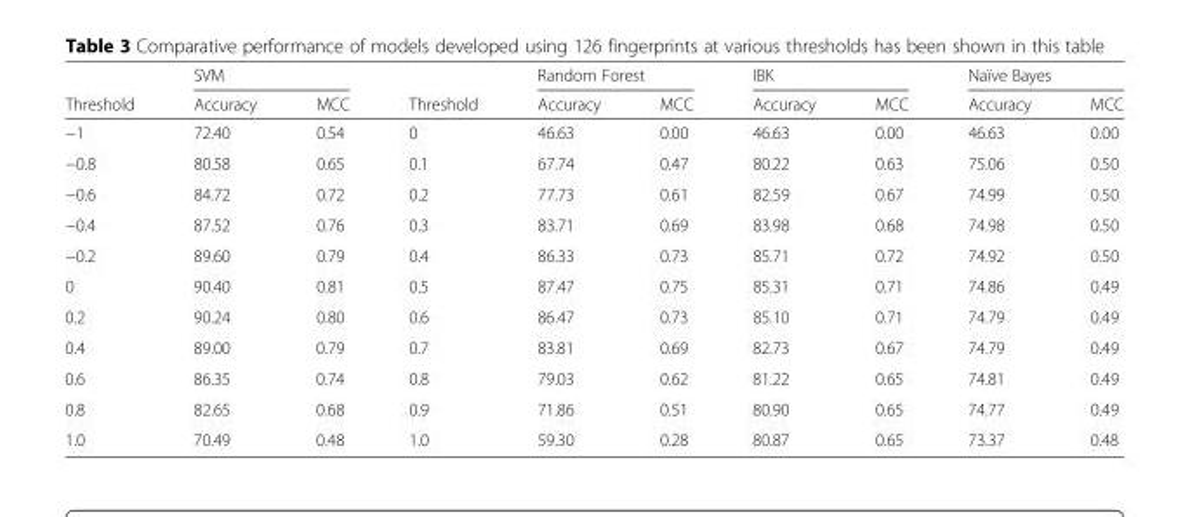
<table><thead><tr><td rowspan="2">Threshold</td><td colspan="2">SVM</td><td rowspan="2">Threshold</td><td colspan="2">Random Forest</td><td colspan="2">IBK</td><td colspan="2">Naïve Bayes</td></tr><tr><td>Accuracy</td><td>MCC</td><td>Accuracy</td><td>MCC</td><td>Accuracy</td><td>MCC</td><td>Accuracy</td><td>MCC</td></tr></thead><tbody><tr><td>−1</td><td>72.40</td><td>0.54</td><td>0</td><td>46.63</td><td>0.00</td><td>46.63</td><td>0.00</td><td>46.63</td><td>0.00</td></tr><tr><td>−0.8</td><td>80.58</td><td>0.65</td><td>0.1</td><td>67.74</td><td>0.47</td><td>80.22</td><td>0.63</td><td>75.06</td><td>0.50</td></tr><tr><td>−0.6</td><td>84.72</td><td>0.72</td><td>0.2</td><td>77.73</td><td>0.61</td><td>82.59</td><td>0.67</td><td>74.99</td><td>0.50</td></tr><tr><td>−0.4</td><td>87.52</td><td>0.76</td><td>0.3</td><td>83.71</td><td>0.69</td><td>83.98</td><td>0.68</td><td>74.98</td><td>0.50</td></tr><tr><td>−0.2</td><td>89.60</td><td>0.79</td><td>0.4</td><td>86.33</td><td>0.73</td><td>85.71</td><td>0.72</td><td>74.92</td><td>0.50</td></tr><tr><td>0</td><td>90.40</td><td>0.81</td><td>0.5</td><td>87.47</td><td>0.75</td><td>85.31</td><td>0.71</td><td>74.86</td><td>0.49</td></tr><tr><td>0.2</td><td>90.24</td><td>0.80</td><td>0.6</td><td>86.47</td><td>0.73</td><td>85.10</td><td>0.71</td><td>74.79</td><td>0.49</td></tr><tr><td>0.4</td><td>89.00</td><td>0.79</td><td>0.7</td><td>83.81</td><td>0.69</td><td>82.73</td><td>0.67</td><td>74.79</td><td>0.49</td></tr><tr><td>0.6</td><td>86.35</td><td>0.74</td><td>0.8</td><td>79.03</td><td>0.62</td><td>81.22</td><td>0.65</td><td>74.81</td><td>0.49</td></tr><tr><td>0.8</td><td>82.65</td><td>0.68</td><td>0.9</td><td>71.86</td><td>0.51</td><td>80.90</td><td>0.65</td><td>74.77</td><td>0.49</td></tr><tr><td>1.0</td><td>70.49</td><td>0.48</td><td>1.0</td><td>59.30</td><td>0.28</td><td>80.87</td><td>0.65</td><td>73.37</td><td>0.48</td></tr></tbody></table>